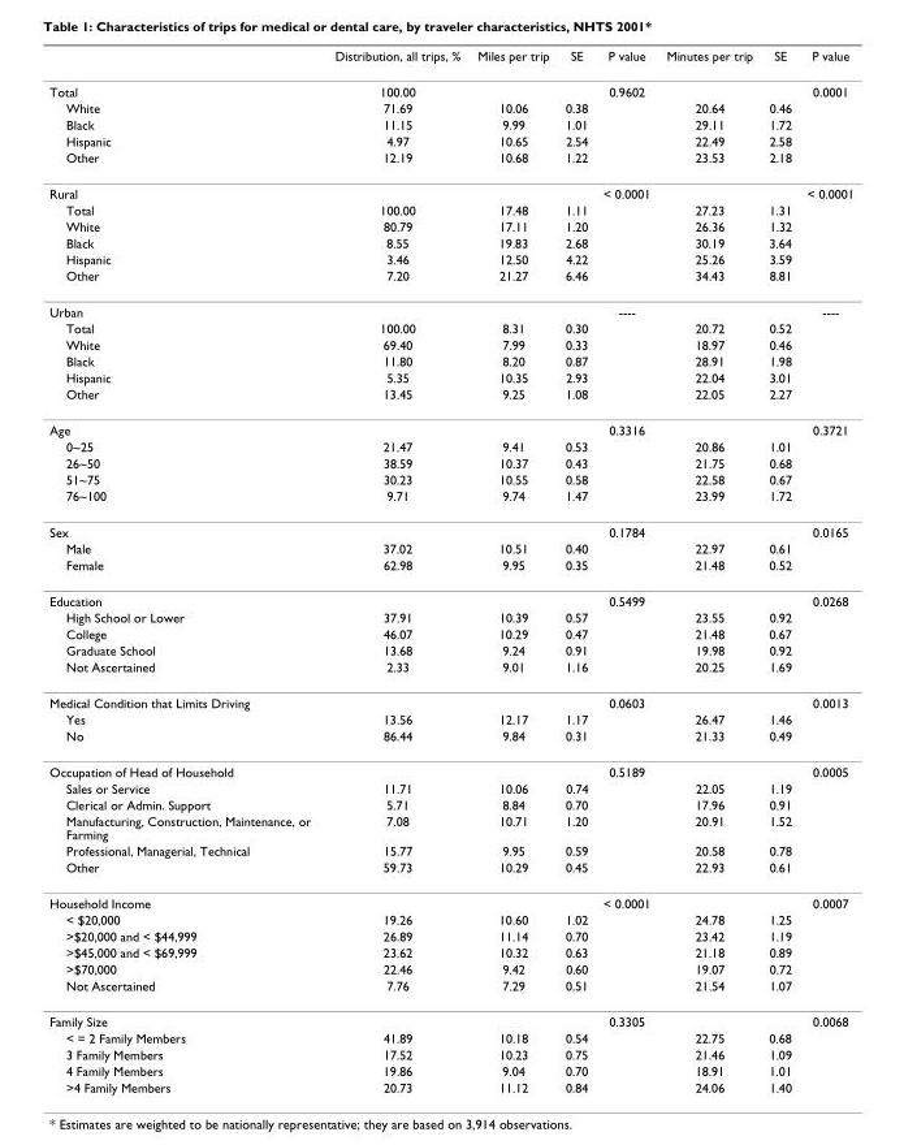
<table><thead><tr><td></td><td>Distribution, all trips, %</td><td>Miles per trip</td><td>SE</td><td>P value</td><td>Minutes per trip</td><td>SE</td><td>P value</td></tr></thead><tbody><tr><td>Total</td><td>100.00</td><td></td><td></td><td>0.9602</td><td></td><td></td><td>0.0001</td></tr><tr><td>White</td><td>71.69</td><td>10.06</td><td>0.38</td><td></td><td>20.64</td><td>0.46</td><td></td></tr><tr><td>Black</td><td>11.15</td><td>9.99</td><td>1.01</td><td></td><td>29.11</td><td>1.72</td><td></td></tr><tr><td>Hispanic</td><td>4.97</td><td>10.65</td><td>2.54</td><td></td><td>22.49</td><td>2.58</td><td></td></tr><tr><td>Other</td><td>12.19</td><td>10.68</td><td>1.22</td><td></td><td>23.53</td><td>2.18</td><td></td></tr><tr><td>Rural</td><td></td><td></td><td></td><td>&lt; 0.0001</td><td></td><td></td><td>&lt; 0.0001</td></tr><tr><td>Total</td><td>100.00</td><td>17.48</td><td>1.11</td><td></td><td>27.23</td><td>1.31</td><td></td></tr><tr><td>White</td><td>80.79</td><td>17.11</td><td>1.20</td><td></td><td>26.36</td><td>1.32</td><td></td></tr><tr><td>Black</td><td>8.55</td><td>19.83</td><td>2.68</td><td></td><td>30.19</td><td>3.64</td><td></td></tr><tr><td>Hispanic</td><td>3.46</td><td>12.50</td><td>4.22</td><td></td><td>25.26</td><td>3.59</td><td></td></tr><tr><td>Other</td><td>7.20</td><td>21.27</td><td>6.46</td><td></td><td>34.43</td><td>8.81</td><td></td></tr><tr><td>Urban</td><td></td><td></td><td></td><td>----</td><td></td><td></td><td>----</td></tr><tr><td>Total</td><td>100.00</td><td>8.31</td><td>0.30</td><td></td><td>20.72</td><td>0.52</td><td></td></tr><tr><td>White</td><td>69.40</td><td>7.99</td><td>0.33</td><td></td><td>18.97</td><td>0.46</td><td></td></tr><tr><td>Black</td><td>11.80</td><td>8.20</td><td>0.87</td><td></td><td>28.91</td><td>1.98</td><td></td></tr><tr><td>Hispanic</td><td>5.35</td><td>10.35</td><td>2.93</td><td></td><td>22.04</td><td>3.01</td><td></td></tr><tr><td>Other</td><td>13.45</td><td>9.25</td><td>1.08</td><td></td><td>22.05</td><td>2.27</td><td></td></tr><tr><td>Age</td><td></td><td></td><td></td><td>0.3316</td><td></td><td></td><td>0.3721</td></tr><tr><td>0~25</td><td>21.47</td><td>9.41</td><td>0.53</td><td></td><td>20.86</td><td>1.01</td><td></td></tr><tr><td>26~50</td><td>38.59</td><td>10.37</td><td>0.43</td><td></td><td>21.75</td><td>0.68</td><td></td></tr><tr><td>51~75</td><td>30.23</td><td>10.55</td><td>0.58</td><td></td><td>22.58</td><td>0.67</td><td></td></tr><tr><td>76~100</td><td>9.71</td><td>9.74</td><td>1.47</td><td></td><td>23.99</td><td>1.72</td><td></td></tr><tr><td>Sex</td><td></td><td></td><td></td><td>0.1784</td><td></td><td></td><td>0.0165</td></tr><tr><td>Male</td><td>37.02</td><td>10.51</td><td>0.40</td><td></td><td>22.97</td><td>0.61</td><td></td></tr><tr><td>Female</td><td>62.98</td><td>9.95</td><td>0.35</td><td></td><td>21.48</td><td>0.52</td><td></td></tr><tr><td>Education</td><td></td><td></td><td></td><td>0.5499</td><td></td><td></td><td>0.0268</td></tr><tr><td>High School or Lower</td><td>37.91</td><td>10.39</td><td>0.57</td><td></td><td>23.55</td><td>0.92</td><td></td></tr><tr><td>College</td><td>46.07</td><td>10.29</td><td>0.47</td><td></td><td>21.48</td><td>0.67</td><td></td></tr><tr><td>Graduate School</td><td>13.68</td><td>9.24</td><td>0.91</td><td></td><td>19.98</td><td>0.92</td><td></td></tr><tr><td>Not Ascertained</td><td>2.33</td><td>9.01</td><td>1.16</td><td></td><td>20.25</td><td>1.69</td><td></td></tr><tr><td>Medical Condition that Limits Driving</td><td></td><td></td><td></td><td>0.0603</td><td></td><td></td><td>0.0013</td></tr><tr><td>Yes</td><td>13.56</td><td>12.17</td><td>1.17</td><td></td><td>26.47</td><td>1.46</td><td></td></tr><tr><td>No</td><td>86.44</td><td>9.84</td><td>0.31</td><td></td><td>21.33</td><td>0.49</td><td></td></tr><tr><td>Occupation of Head of Household</td><td></td><td></td><td></td><td>0.5189</td><td></td><td></td><td>0.0005</td></tr><tr><td>Sales or Service</td><td>11.71</td><td>10.06</td><td>0.74</td><td></td><td>22.05</td><td>1.19</td><td></td></tr><tr><td>Clerical or Admin. Support</td><td>5.71</td><td>8.84</td><td>0.70</td><td></td><td>17.96</td><td>0.91</td><td></td></tr><tr><td>Manufacturing, Construction, Maintenance, or Farming</td><td>7.08</td><td>10.71</td><td>1.20</td><td></td><td>20.91</td><td>1.52</td><td></td></tr><tr><td>Professional, Managerial, Technical</td><td>15.77</td><td>9.95</td><td>0.59</td><td></td><td>20.58</td><td>0.78</td><td></td></tr><tr><td>Other</td><td>59.73</td><td>10.29</td><td>0.45</td><td></td><td>22.93</td><td>0.61</td><td></td></tr><tr><td>Household Income</td><td></td><td></td><td></td><td>&lt; 0.0001</td><td></td><td></td><td>0.0007</td></tr><tr><td>&lt; $20,000</td><td>19.26</td><td>10.60</td><td>1.02</td><td></td><td>24.78</td><td>1.25</td><td></td></tr><tr><td>&gt;$20,000 and &lt; $44,999</td><td>26.89</td><td>11.14</td><td>0.70</td><td></td><td>23.42</td><td>1.19</td><td></td></tr><tr><td>&gt;$45,000 and &lt; $69,999</td><td>23.62</td><td>10.32</td><td>0.63</td><td></td><td>21.18</td><td>0.89</td><td></td></tr><tr><td>&gt;$70,000</td><td>22.46</td><td>9.42</td><td>0.60</td><td></td><td>19.07</td><td>0.72</td><td></td></tr><tr><td>Not Ascertained</td><td>7.76</td><td>7.29</td><td>0.51</td><td></td><td>21.54</td><td>1.07</td><td></td></tr><tr><td>Family Size</td><td></td><td></td><td></td><td>0.3305</td><td></td><td></td><td>0.0068</td></tr><tr><td>&lt; = 2 Family Members</td><td>41.89</td><td>10.18</td><td>0.54</td><td></td><td>22.75</td><td>0.68</td><td></td></tr><tr><td>3 Family Members</td><td>17.52</td><td>10.23</td><td>0.75</td><td></td><td>21.46</td><td>1.09</td><td></td></tr><tr><td>4 Family Members</td><td>19.86</td><td>9.04</td><td>0.70</td><td></td><td>18.91</td><td>1.01</td><td></td></tr><tr><td>&gt;4 Family Members</td><td>20.73</td><td>11.12</td><td>0.84</td><td></td><td>24.06</td><td>1.40</td><td></td></tr></tbody></table>